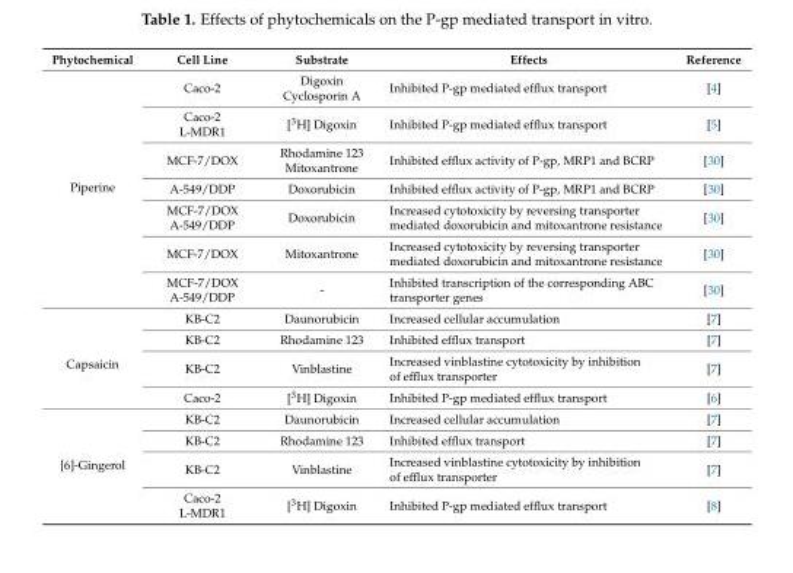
<table><thead><tr><td>Phytochemical</td><td>Cell Line</td><td>Substrate</td><td>Effects</td><td>Reference</td></tr></thead><tbody><tr><td rowspan="7">Piperine</td><td>Caco-2</td><td>Digoxin Cyclosporin A</td><td>Inhibited P-gp mediated efflux transport</td><td>[4]</td></tr><tr><td>Caco-2 L-MDR1</td><td>[<sup>3</sup>H] Digoxin</td><td>Inhibited P-gp mediated efflux transport</td><td>[5]</td></tr><tr><td>MCF-7/DOX</td><td>Rhodamine 123 Mitoxantrone</td><td>Inhibited efflux activity of P-gp, MRP1 and BCRP</td><td>[30]</td></tr><tr><td>A-549/DDP</td><td>Doxorubicin</td><td>Inhibited efflux activity of P-gp, MRP1 and BCRP</td><td>[30]</td></tr><tr><td>MCF-7/DOX A-549/DDP</td><td>Doxorubicin</td><td>Increased cytotoxicity by reversing transporter mediated doxorubicin and mitoxantrone resistance</td><td>[30]</td></tr><tr><td>MCF-7/DOX</td><td>Mitoxantrone</td><td>Increased cytotoxicity by reversing transporter mediated doxorubicin and mitoxantrone resistance</td><td>[30]</td></tr><tr><td>MCF-7/DOX A-549/DDP</td><td>-</td><td>Inhibited transcription of the corresponding ABC transporter genes</td><td>[30]</td></tr><tr><td rowspan="4">Capsaicin</td><td>KB-C2</td><td>Daunorubicin</td><td>Increased cellular accumulation</td><td>[7]</td></tr><tr><td>KB-C2</td><td>Rhodamine 123</td><td>Inhibited efflux transport</td><td>[7]</td></tr><tr><td>KB-C2</td><td>Vinblastine</td><td>Increased vinblastine cytotoxicity by inhibition of efflux transporter</td><td>[7]</td></tr><tr><td>Caco-2</td><td>[<sup>3</sup>H] Digoxin</td><td>Inhibited P-gp mediated efflux transport</td><td>[6]</td></tr><tr><td rowspan="4">[6]-Gingerol</td><td>KB-C2</td><td>Daunorubicin</td><td>Increased cellular accumulation</td><td>[7]</td></tr><tr><td>KB-C2</td><td>Rhodamine 123</td><td>Inhibited efflux transport</td><td>[7]</td></tr><tr><td>KB-C2</td><td>Vinblastine</td><td>Increased vinblastine cytotoxicity by inhibition of efflux transporter</td><td>[7]</td></tr><tr><td>Caco-2 L-MDR1</td><td>[<sup>3</sup>H] Digoxin</td><td>Inhibited P-gp mediated efflux transport</td><td>[8]</td></tr></tbody></table>